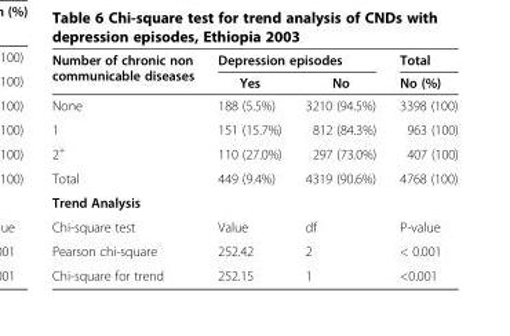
<table><thead><tr><td rowspan="2">Number of chronic non communicable diseases</td><td colspan="2">Depression episodes</td><td rowspan="2">Total No (%)</td></tr><tr><td>Yes</td><td>No</td></tr></thead><tbody><tr><td>None</td><td>188 (5.5%)</td><td>3210 (94.5%)</td><td>3398 (100)</td></tr><tr><td>1</td><td>151 (15.7%)</td><td>812 (84.3%)</td><td>963 (100)</td></tr><tr><td>2<sup>+</sup></td><td>110 (27.0%)</td><td>297 (73.0%)</td><td>407 (100)</td></tr><tr><td>Total</td><td>449 (9.4%)</td><td>4319 (90.6%)</td><td>4768 (100)</td></tr><tr><td colspan="4">Trend Analysis</td></tr><tr><td>Chi-square test</td><td>Value</td><td>df</td><td>P-value</td></tr><tr><td>Pearson chi-square</td><td>252.42</td><td>2</td><td>&lt; 0.001</td></tr><tr><td>Chi-square for trend</td><td>252.15</td><td>1</td><td>&lt;0.001</td></tr></tbody></table>